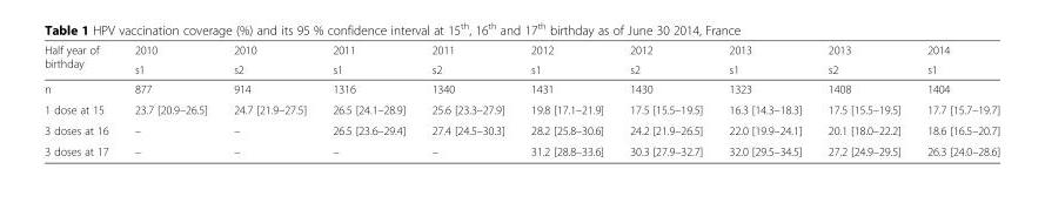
<table><thead><tr><td rowspan="2">Half year of birthday</td><td rowspan="2">2010 s1</td><td rowspan="2">2010 s2</td><td rowspan="2">2011 s1</td><td rowspan="2">2011 s2</td><td rowspan="2">2012 s1</td><td rowspan="2">2012 s2</td><td rowspan="2">2013 s1</td><td rowspan="2">2013 s2</td><td rowspan="2">2014 s1</td></tr><tr></tr></thead><tbody><tr><td>n</td><td>877</td><td>914</td><td>1316</td><td>1340</td><td>1431</td><td>1430</td><td>1323</td><td>1408</td><td>1404</td></tr><tr><td>1 dose at 15</td><td>23.7 [20.9–26.5]</td><td>24.7 [21.9–27.5]</td><td>26.5 [24.1–28.9]</td><td>25.6 [23.3–27.9]</td><td>19.8 [17.1–21.9]</td><td>17.5 [15.5–19.5]</td><td>16.3 [14.3–18.3]</td><td>17.5 [15.5–19.5]</td><td>17.7 [15.7–19.7]</td></tr><tr><td>3 doses at 16</td><td>–</td><td>–</td><td>26.5 [23.6–29.4]</td><td>27.4 [24.5–30.3]</td><td>28.2 [25.8–30.6]</td><td>24.2 [21.9–26.5]</td><td>22.0 [19.9–24.1]</td><td>20.1 [18.0–22.2]</td><td>18.6 [16.5–20.7]</td></tr><tr><td>3 doses at 17</td><td>–</td><td>–</td><td>–</td><td>–</td><td>31.2 [28.8–33.6]</td><td>30.3 [27.9–32.7]</td><td>32.0 [29.5–34.5]</td><td>27.2 [24.9–29.5]</td><td>26.3 [24.0–28.6]</td></tr></tbody></table>